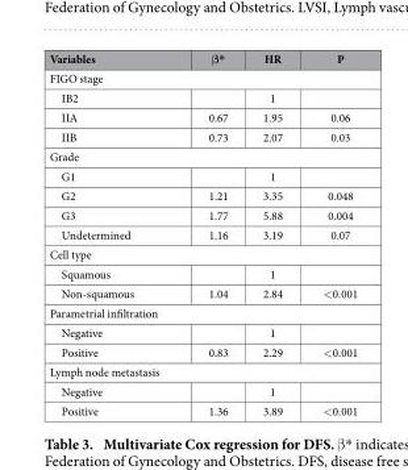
<table><thead><tr><td>Variables</td><td>β*</td><td>HR</td><td>P</td></tr></thead><tbody><tr><td colspan="4">FIGO stage</td></tr><tr><td>IB2</td><td></td><td>1</td><td></td></tr><tr><td>IIA</td><td>0.67</td><td>1.95</td><td>0.06</td></tr><tr><td>IIB</td><td>0.73</td><td>2.07</td><td>0.03</td></tr><tr><td colspan="4">Grade</td></tr><tr><td>G1</td><td></td><td>1</td><td></td></tr><tr><td>G2</td><td>1.21</td><td>3.35</td><td>0.048</td></tr><tr><td>G3</td><td>1.77</td><td>5.88</td><td>0.004</td></tr><tr><td>Undetermined</td><td>1.16</td><td>3.19</td><td>0.07</td></tr><tr><td colspan="4">Cell type</td></tr><tr><td>Squamous</td><td></td><td>1</td><td></td></tr><tr><td>Non-squamous</td><td>1.04</td><td>2.84</td><td>&lt;0.001</td></tr><tr><td colspan="4">Parametrial infiltration</td></tr><tr><td>Negative</td><td></td><td>1</td><td></td></tr><tr><td>Positive</td><td>0.83</td><td>2.29</td><td>&lt;0.001</td></tr><tr><td colspan="4">Lymph node metastasis</td></tr><tr><td>Negative</td><td></td><td>1</td><td></td></tr><tr><td>Positive</td><td>1.36</td><td>3.89</td><td>&lt;0.001</td></tr></tbody></table>